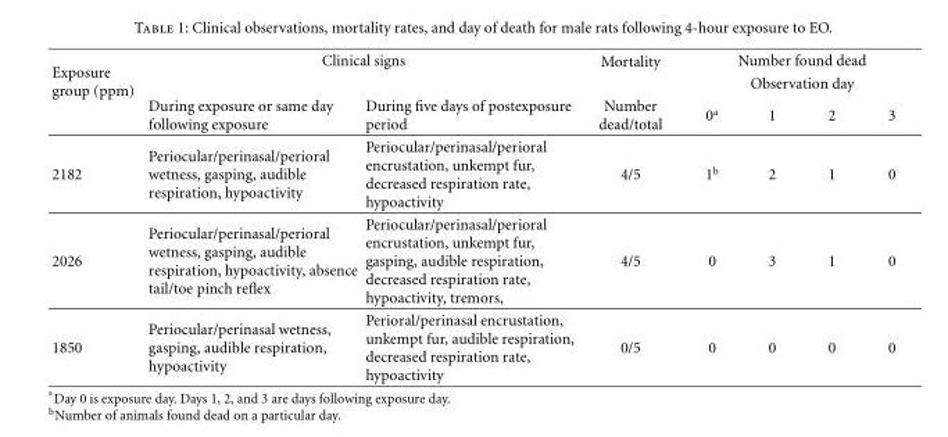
<table><thead><tr><td rowspan="2">Exposure group (ppm)</td><td colspan="2">Clinical signs</td><td rowspan="2">Mortality Number dead/total</td><td colspan="4">Number found dead Observation day</td></tr><tr><td>During exposure or same day following exposure</td><td>During five days of postexposure period</td><td>0<sup>a</sup></td><td>1</td><td>2</td><td>3</td></tr></thead><tbody><tr><td>2182</td><td>Periocular/perinasal/perioral wetness, gasping, audible respiration, hypoactivity</td><td>Periocular/perinasal/perioral encrustation, unkempt fur, decreased respiration rate, hypoactivity</td><td>4/5</td><td>1<sup>b</sup></td><td>2</td><td>1</td><td>0</td></tr><tr><td>2026</td><td>Periocular/perinasal/perioral wetness, gasping, audible respiration, hypoactivity, absence tail/toe pinch reflex</td><td>Periocular/perinasal/perioral encrustation, unkempt fur, gasping, audible respiration, decreased respiration rate, hypoactivity, tremors,</td><td>4/5</td><td>0</td><td>3</td><td>1</td><td>0</td></tr><tr><td>1850</td><td>Periocular/perinasal wetness, gasping, audible respiration, hypoactivity</td><td>Perioral/perinasal encrustation, unkempt fur, audible respiration, decreased respiration rate, hypoactivity</td><td>0/5</td><td>0</td><td>0</td><td>0</td><td>0</td></tr></tbody></table>